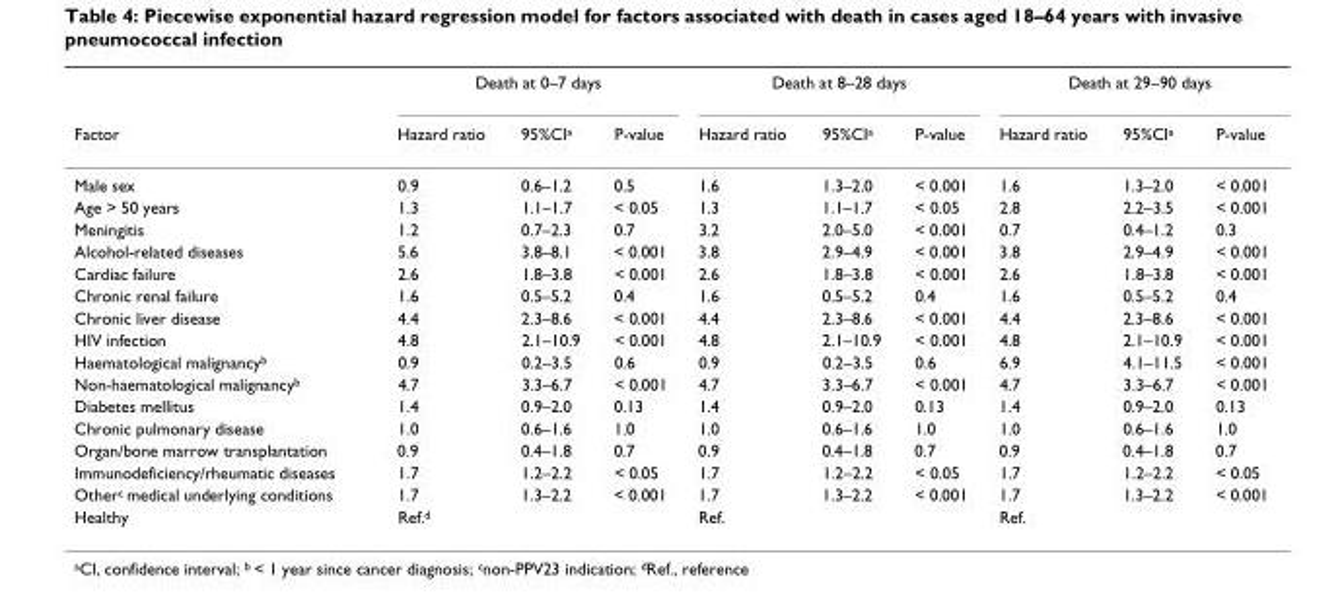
<table><thead><tr><td rowspan="2">Factor</td><td colspan="3">Death at 0–7 days</td><td colspan="3">Death at 8–28 days</td><td colspan="3">Death at 29–90 days</td></tr><tr><td>Hazard ratio</td><td>95%CI<sup>a</sup></td><td>P-value</td><td>Hazard ratio</td><td>95%CI<sup>a</sup></td><td>P-value</td><td>Hazard ratio</td><td>95%CI<sup>a</sup></td><td>P-value</td></tr></thead><tbody><tr><td>Male sex</td><td>0.9</td><td>0.6–1.2</td><td>0.5</td><td>1.6</td><td>1.3–2.0</td><td>&lt; 0.001</td><td>1.6</td><td>1.3–2.0</td><td>&lt; 0.001</td></tr><tr><td>Age &gt; 50 years</td><td>1.3</td><td>1.1–1.7</td><td>&lt; 0.05</td><td>1.3</td><td>1.1–1.7</td><td>&lt; 0.05</td><td>2.8</td><td>2.2–3.5</td><td>&lt; 0.001</td></tr><tr><td>Meningitis</td><td>1.2</td><td>0.7–2.3</td><td>0.7</td><td>3.2</td><td>2.0–5.0</td><td>&lt; 0.001</td><td>0.7</td><td>0.4–1.2</td><td>0.3</td></tr><tr><td>Alcohol-related diseases</td><td>5.6</td><td>3.8–8.1</td><td>&lt; 0.001</td><td>3.8</td><td>2.9–4.9</td><td>&lt; 0.001</td><td>3.8</td><td>2.9–4.9</td><td>&lt; 0.001</td></tr><tr><td>Cardiac failure</td><td>2.6</td><td>1.8–3.8</td><td>&lt; 0.001</td><td>2.6</td><td>1.8–3.8</td><td>&lt; 0.001</td><td>2.6</td><td>1.8–3.8</td><td>&lt; 0.001</td></tr><tr><td>Chronic renal failure</td><td>1.6</td><td>0.5–5.2</td><td>0.4</td><td>1.6</td><td>0.5–5.2</td><td>0.4</td><td>1.6</td><td>0.5–5.2</td><td>0.4</td></tr><tr><td>Chronic liver disease</td><td>4.4</td><td>2.3–8.6</td><td>&lt; 0.001</td><td>4.4</td><td>2.3–8.6</td><td>&lt; 0.001</td><td>4.4</td><td>2.3–8.6</td><td>&lt; 0.001</td></tr><tr><td>HIV infection</td><td>4.8</td><td>2.1–10.9</td><td>&lt; 0.001</td><td>4.8</td><td>2.1–10.9</td><td>&lt; 0.001</td><td>4.8</td><td>2.1–10.9</td><td>&lt; 0.001</td></tr><tr><td>Haematological malignancy<sup>b</sup></td><td>0.9</td><td>0.2–3.5</td><td>0.6</td><td>0.9</td><td>0.2–3.5</td><td>0.6</td><td>6.9</td><td>4.1–11.5</td><td>&lt; 0.001</td></tr><tr><td>Non-haematological malignancy<sup>b</sup></td><td>4.7</td><td>3.3–6.7</td><td>&lt; 0.001</td><td>4.7</td><td>3.3–6.7</td><td>&lt; 0.001</td><td>4.7</td><td>3.3–6.7</td><td>&lt; 0.001</td></tr><tr><td>Diabetes mellitus</td><td>1.4</td><td>0.9–2.0</td><td>0.13</td><td>1.4</td><td>0.9–2.0</td><td>0.13</td><td>1.4</td><td>0.9–2.0</td><td>0.13</td></tr><tr><td>Chronic pulmonary disease</td><td>1.0</td><td>0.6–1.6</td><td>1.0</td><td>1.0</td><td>0.6–1.6</td><td>1.0</td><td>1.0</td><td>0.6–1.6</td><td>1.0</td></tr><tr><td>Organ/bone marrow transplantation</td><td>0.9</td><td>0.4–1.8</td><td>0.7</td><td>0.9</td><td>0.4–1.8</td><td>0.7</td><td>0.9</td><td>0.4–1.8</td><td>0.7</td></tr><tr><td>Immunodeficiency/rheumatic diseases</td><td>1.7</td><td>1.2–2.2</td><td>&lt; 0.05</td><td>1.7</td><td>1.2–2.2</td><td>&lt; 0.05</td><td>1.7</td><td>1.2–2.2</td><td>&lt; 0.05</td></tr><tr><td>Other<sup>c</sup> medical underlying conditions</td><td>1.7</td><td>1.3–2.2</td><td>&lt; 0.001</td><td>1.7</td><td>1.3–2.2</td><td>&lt; 0.001</td><td>1.7</td><td>1.3–2.2</td><td>&lt; 0.001</td></tr><tr><td>Healthy</td><td>Ref.<sup>d</sup></td><td></td><td></td><td>Ref.</td><td></td><td></td><td>Ref.</td><td></td><td></td></tr></tbody></table>